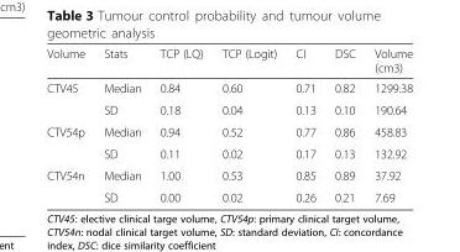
<table><thead><tr><td>Volume</td><td>Stats</td><td>TCP (LQ)</td><td>TCP (Logit)</td><td>CI</td><td>DSC</td><td>Volume (cm3)</td></tr></thead><tbody><tr><td rowspan="2">CTV45</td><td>Median</td><td>0.84</td><td>0.60</td><td>0.71</td><td>0.82</td><td>1299.38</td></tr><tr><td>SD</td><td>0.18</td><td>0.04</td><td>0.13</td><td>0.10</td><td>190.64</td></tr><tr><td rowspan="2">CTV54p</td><td>Median</td><td>0.94</td><td>0.52</td><td>0.77</td><td>0.86</td><td>458.83</td></tr><tr><td>SD</td><td>0.11</td><td>0.02</td><td>0.17</td><td>0.13</td><td>132.92</td></tr><tr><td rowspan="2">CTV54n</td><td>Median</td><td>1.00</td><td>0.53</td><td>0.85</td><td>0.89</td><td>37.92</td></tr><tr><td>SD</td><td>0.00</td><td>0.02</td><td>0.26</td><td>0.21</td><td>7.69</td></tr></tbody></table>